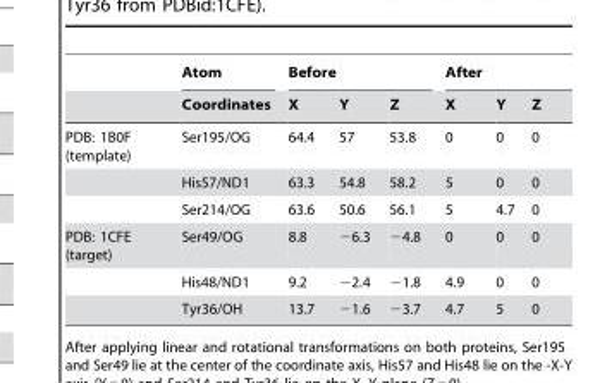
<table><thead><tr><td rowspan="2"></td><td rowspan="2">Atom Coordinates</td><td colspan="3">Before</td><td colspan="3">After</td></tr><tr><td>X</td><td>Y</td><td>Z</td><td>X</td><td>Y</td><td>Z</td></tr></thead><tbody><tr><td rowspan="3">PDB: 1B0F (template)</td><td>Ser195/OG</td><td>64.4</td><td>57</td><td>53.8</td><td>0</td><td>0</td><td>0</td></tr><tr><td>His57/ND1</td><td>63.3</td><td>54.8</td><td>58.2</td><td>5</td><td>0</td><td>0</td></tr><tr><td>Ser214/OG</td><td>63.6</td><td>50.6</td><td>56.1</td><td>5</td><td>4.7</td><td>0</td></tr><tr><td rowspan="3">PDB: 1CFE (target)</td><td>Ser49/OG</td><td>8.8</td><td>−6.3</td><td>−4.8</td><td>0</td><td>0</td><td>0</td></tr><tr><td>His48/ND1</td><td>9.2</td><td>−2.4</td><td>−1.8</td><td>4.9</td><td>0</td><td>0</td></tr><tr><td>Tyr36/OH</td><td>13.7</td><td>−1.6</td><td>−3.7</td><td>4.7</td><td>5</td><td>0</td></tr></tbody></table>